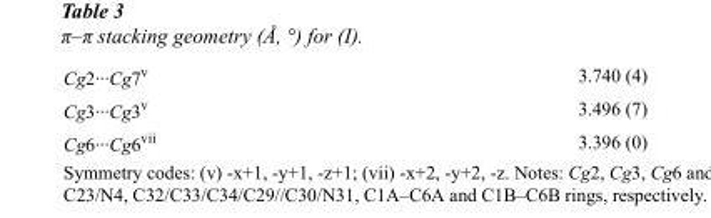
<table><tbody><tr><td>Cg2···Cg7<sup>v</sup></td><td>3.740 (4)</td></tr><tr><td>Cg3···Cg3<sup>v</sup></td><td>3.496 (7)</td></tr><tr><td>Cg6···Cg6<sup>vii</sup></td><td>3.396 (0)</td></tr></tbody></table>